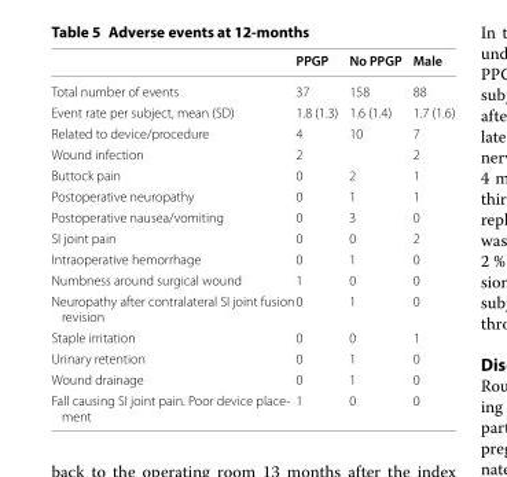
<table><thead><tr><td></td><td>PPGP</td><td>No PPGP</td><td>Male</td></tr></thead><tbody><tr><td>Total number of events</td><td>37</td><td>158</td><td>88</td></tr><tr><td>Event rate per subject, mean (SD)</td><td>1.8 (1.3)</td><td>1.6 (1.4)</td><td>1.7 (1.6)</td></tr><tr><td>Related to device/procedure</td><td>4</td><td>10</td><td>7</td></tr><tr><td>Wound infection</td><td>2</td><td></td><td>2</td></tr><tr><td>Buttock pain</td><td>0</td><td>2</td><td>1</td></tr><tr><td>Postoperative neuropathy</td><td>0</td><td>1</td><td>1</td></tr><tr><td>Postoperative nausea/vomiting</td><td>0</td><td>3</td><td>0</td></tr><tr><td>SI joint pain</td><td>0</td><td>0</td><td>2</td></tr><tr><td>Intraoperative hemorrhage</td><td>0</td><td>1</td><td>0</td></tr><tr><td>Numbness around surgical wound</td><td>1</td><td>0</td><td>0</td></tr><tr><td>Neuropathy after contralateral SI joint fusion revision</td><td>0</td><td>1</td><td>0</td></tr><tr><td>Staple irritation</td><td>0</td><td>0</td><td>1</td></tr><tr><td>Urinary retention</td><td>0</td><td>1</td><td>0</td></tr><tr><td>Wound drainage</td><td>0</td><td>1</td><td>0</td></tr><tr><td>Fall causing SI joint pain. Poor device place- ment</td><td>1</td><td>0</td><td>0</td></tr></tbody></table>